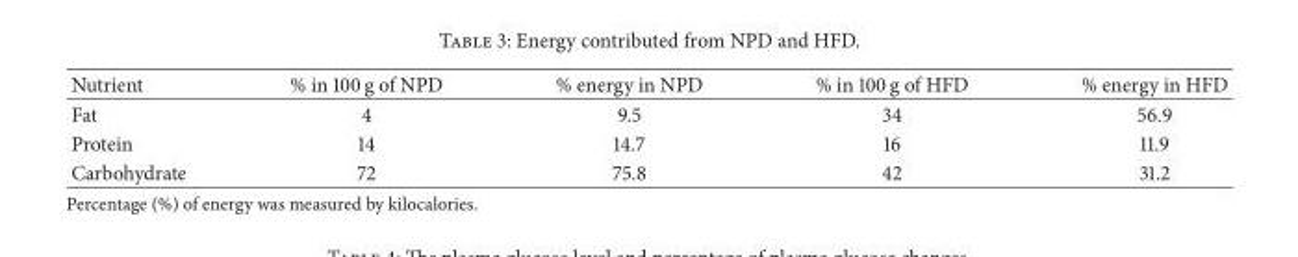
<table><thead><tr><td>Nutrient</td><td>% in 100 g of NPD</td><td>% energy in NPD</td><td>% in 100 g of HFD</td><td>% energy in HFD</td></tr></thead><tbody><tr><td>Fat</td><td>4</td><td>9.5</td><td>34</td><td>56.9</td></tr><tr><td>Protein</td><td>14</td><td>14.7</td><td>16</td><td>11.9</td></tr><tr><td>Carbohydrate</td><td>72</td><td>75.8</td><td>42</td><td>31.2</td></tr></tbody></table>